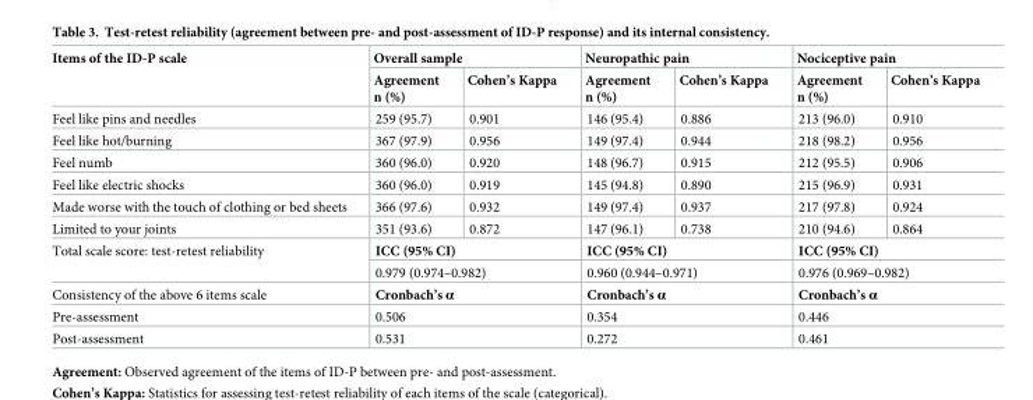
<table><thead><tr><td rowspan="2">Items of the ID-P scale</td><td colspan="2">Overall sample</td><td colspan="2">Neuropathic pain</td><td colspan="2">Nociceptive pain</td></tr><tr><td>Agreement n (%)</td><td>Cohen’s Kappa</td><td>Agreement n (%)</td><td>Cohen’s Kappa</td><td>Agreement n (%)</td><td>Cohen’s Kappa</td></tr></thead><tbody><tr><td>Feel like pins and needles</td><td>259 (95.7)</td><td>0.901</td><td>146 (95.4)</td><td>0.886</td><td>213 (96.0)</td><td>0.910</td></tr><tr><td>Feel like hot/burning</td><td>367 (97.9)</td><td>0.956</td><td>149 (97.4)</td><td>0.944</td><td>218 (98.2)</td><td>0.956</td></tr><tr><td>Feel numb</td><td>360 (96.0)</td><td>0.920</td><td>148 (96.7)</td><td>0.915</td><td>212 (95.5)</td><td>0.906</td></tr><tr><td>Feel like electric shocks</td><td>360 (96.0)</td><td>0.919</td><td>145 (94.8)</td><td>0.890</td><td>215 (96.9)</td><td>0.931</td></tr><tr><td>Made worse with the touch of clothing or bed sheets</td><td>366 (97.6)</td><td>0.932</td><td>149 (97.4)</td><td>0.937</td><td>217 (97.8)</td><td>0.924</td></tr><tr><td>Limited to your joints</td><td>351 (93.6)</td><td>0.872</td><td>147 (96.1)</td><td>0.738</td><td>210 (94.6)</td><td>0.864</td></tr><tr><td rowspan="2">Total scale score: test-retest reliability</td><td colspan="2">ICC (95% CI)</td><td colspan="2">ICC (95% CI)</td><td colspan="2">ICC (95% CI)</td></tr><tr><td colspan="2">0.979 (0.974–0.982)</td><td colspan="2">0.960 (0.944–0.971)</td><td colspan="2">0.976 (0.969–0.982)</td></tr><tr><td>Consistency of the above 6 items scale</td><td colspan="2">Cronbach’s α</td><td colspan="2">Cronbach’s α</td><td colspan="2">Cronbach’s α</td></tr><tr><td>Pre-assessment</td><td colspan="2">0.506</td><td colspan="2">0.354</td><td colspan="2">0.446</td></tr><tr><td>Post-assessment</td><td colspan="2">0.531</td><td colspan="2">0.272</td><td colspan="2">0.461</td></tr></tbody></table>